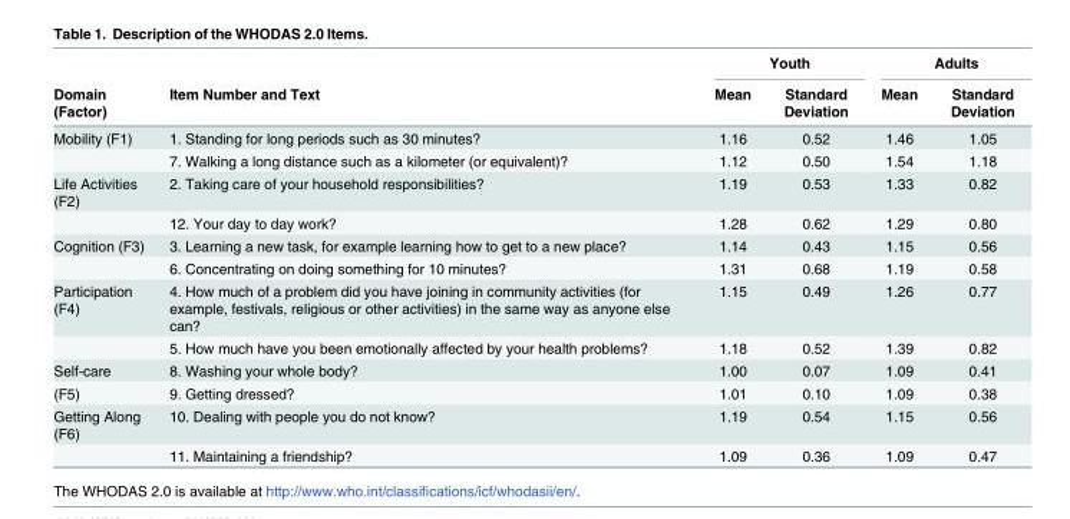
<table><thead><tr><td rowspan="2">Domain (Factor)</td><td rowspan="2">Item Number and Text</td><td colspan="2">Youth</td><td colspan="2">Adults</td></tr><tr><td>Mean</td><td>Standard Deviation</td><td>Mean</td><td>Standard Deviation</td></tr></thead><tbody><tr><td rowspan="2">Mobility (F1)</td><td>1. Standing for long periods such as 30 minutes?</td><td>1.16</td><td>0.52</td><td>1.46</td><td>1.05</td></tr><tr><td>7. Walking a long distance such as a kilometer (or equivalent)?</td><td>1.12</td><td>0.50</td><td>1.54</td><td>1.18</td></tr><tr><td rowspan="2">Life Activities (F2)</td><td>2. Taking care of your household responsibilities?</td><td>1.19</td><td>0.53</td><td>1.33</td><td>0.82</td></tr><tr><td>12. Your day to day work?</td><td>1.28</td><td>0.62</td><td>1.29</td><td>0.80</td></tr><tr><td rowspan="2">Cognition (F3)</td><td>3. Learning a new task, for example learning how to get to a new place?</td><td>1.14</td><td>0.43</td><td>1.15</td><td>0.56</td></tr><tr><td>6. Concentrating on doing something for 10 minutes?</td><td>1.31</td><td>0.68</td><td>1.19</td><td>0.58</td></tr><tr><td rowspan="2">Participation (F4)</td><td>4. How much of a problem did you have joining in community activities (for example, festivals, religious or other activities) in the same way as anyone else can?</td><td>1.15</td><td>0.49</td><td>1.26</td><td>0.77</td></tr><tr><td>5. How much have you been emotionally affected by your health problems?</td><td>1.18</td><td>0.52</td><td>1.39</td><td>0.82</td></tr><tr><td>Self-care</td><td>8. Washing your whole body?</td><td>1.00</td><td>0.07</td><td>1.09</td><td>0.41</td></tr><tr><td>(F5)</td><td>9. Getting dressed?</td><td>1.01</td><td>0.10</td><td>1.09</td><td>0.38</td></tr><tr><td rowspan="2">Getting Along (F6)</td><td>10. Dealing with people you do not know?</td><td>1.19</td><td>0.54</td><td>1.15</td><td>0.56</td></tr><tr><td>11. Maintaining a friendship?</td><td>1.09</td><td>0.36</td><td>1.09</td><td>0.47</td></tr></tbody></table>